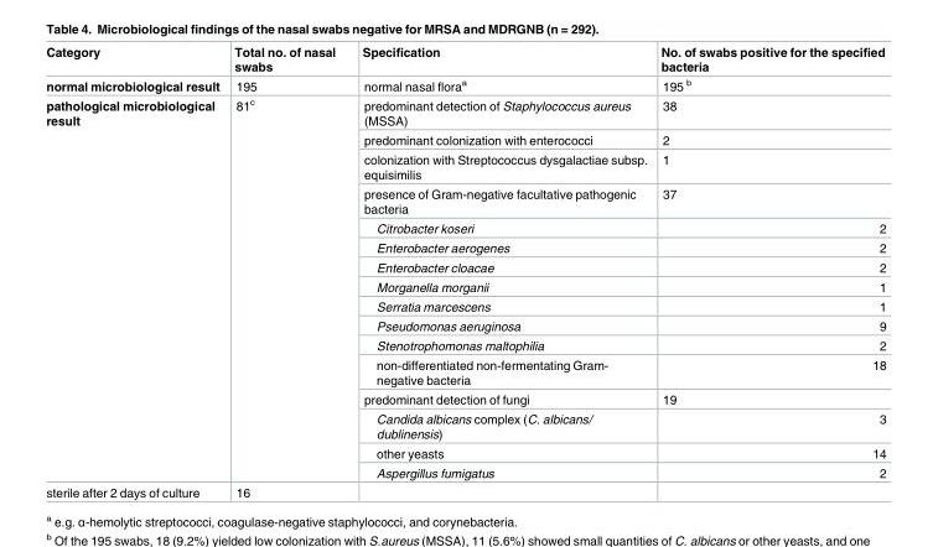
<table><thead><tr><td>Category</td><td>Total no. of nasal swabs</td><td>Specification</td><td>No. of swabs positive for the specified bacteria</td></tr></thead><tbody><tr><td>normal microbiological result</td><td>195</td><td>normal nasal flora<sup>a</sup></td><td>195 <sup>b</sup></td></tr><tr><td rowspan="16">pathological microbiological result</td><td rowspan="16">81<sup>c</sup></td><td>predominant detection of Staphylococcus aureus (MSSA)</td><td>38</td></tr><tr><td>predominant colonization with enterococci</td><td>2</td></tr><tr><td>colonization with Streptococcus dysgalactiae subsp. equisimilis</td><td>1</td></tr><tr><td>presence of Gram-negative facultative pathogenic bacteria</td><td>37</td></tr><tr><td>Citrobacter koseri</td><td>2</td></tr><tr><td>Enterobacter aerogenes</td><td>2</td></tr><tr><td>Enterobacter cloacae</td><td>2</td></tr><tr><td>Morganella morganii</td><td>1</td></tr><tr><td>Serratia marcescens</td><td>1</td></tr><tr><td>Pseudomonas aeruginosa</td><td>9</td></tr><tr><td>Stenotrophomonas maltophilia</td><td>2</td></tr><tr><td>non-differentiated non-fermentating Gram- negative bacteria</td><td>18</td></tr><tr><td>predominant detection of fungi</td><td>19</td></tr><tr><td>Candida albicans complex (C. albicans/ dublinensis)</td><td>3</td></tr><tr><td>other yeasts</td><td>14</td></tr><tr><td>Aspergillus fumigatus</td><td>2</td></tr><tr><td>sterile after 2 days of culture</td><td>16</td><td></td><td></td></tr></tbody></table>